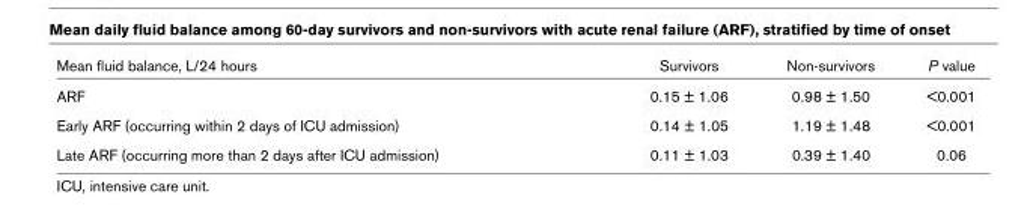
<table><thead><tr><td>Mean fluid balance, L/24 hours</td><td>Survivors</td><td>Non-survivors</td><td>P value</td></tr></thead><tbody><tr><td>ARF</td><td>0.15 ± 1.06</td><td>0.98 ± 1.50</td><td>&lt;0.001</td></tr><tr><td>Early ARF (occurring within 2 days of ICU admission)</td><td>0.14 ± 1.05</td><td>1.19 ± 1.48</td><td>&lt;0.001</td></tr><tr><td>Late ARF (occurring more than 2 days after ICU admission)</td><td>0.11 ± 1.03</td><td>0.39 ± 1.40</td><td>0.06</td></tr></tbody></table>